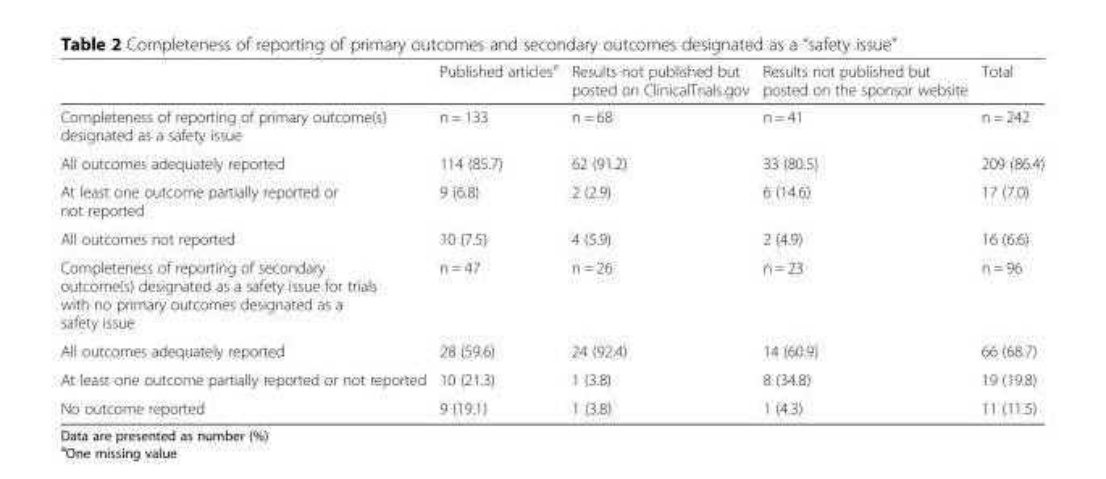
<table><thead><tr><td></td><td>Published articles<sup>a</sup></td><td>Results not published but posted on ClinicalTrials.gov</td><td>Results not published but posted on the sponsor website</td><td>Total</td></tr></thead><tbody><tr><td>Completeness of reporting of primary outcome(s) designated as a safety issue</td><td>n = 133</td><td>n = 68</td><td>n = 41</td><td>n = 242</td></tr><tr><td>All outcomes adequately reported</td><td>114 (85.7)</td><td>62 (91.2)</td><td>33 (80.5)</td><td>209 (86.4)</td></tr><tr><td>At least one outcome partially reported or not reported</td><td>9 (6.8)</td><td>2 (2.9)</td><td>6 (14.6)</td><td>17 (7.0)</td></tr><tr><td>All outcomes not reported</td><td>10 (7.5)</td><td>4 (5.9)</td><td>2 (4.9)</td><td>16 (6.6)</td></tr><tr><td>Completeness of reporting of secondary outcome(s) designated as a safety issue for trials with no primary outcomes designated as a safety issue</td><td>n = 47</td><td>n = 26</td><td>n = 23</td><td>n = 96</td></tr><tr><td>All outcomes adequately reported</td><td>28 (59.6)</td><td>24 (92.4)</td><td>14 (60.9)</td><td>66 (68.7)</td></tr><tr><td>At least one outcome partially reported or not reported</td><td>10 (21.3)</td><td>1 (3.8)</td><td>8 (34.8)</td><td>19 (19.8)</td></tr><tr><td>No outcome reported</td><td>9 (19.1)</td><td>1 (3.8)</td><td>1 (4.3)</td><td>11 (11.5)</td></tr></tbody></table>